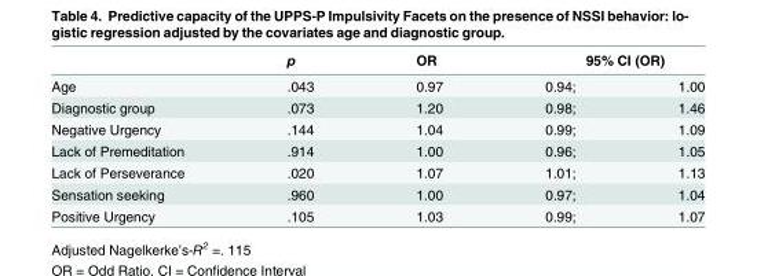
<table><thead><tr><td rowspan="2">Age</td><td rowspan="2">p .043</td><td rowspan="2">OR 0.97</td><td colspan="2">95% CI (OR)</td></tr><tr><td>0.94;</td><td>1.00</td></tr></thead><tbody><tr><td>Diagnostic group</td><td>.073</td><td>1.20</td><td>0.98;</td><td>1.46</td></tr><tr><td>Negative Urgency</td><td>.144</td><td>1.04</td><td>0.99;</td><td>1.09</td></tr><tr><td>Lack of Premeditation</td><td>.914</td><td>1.00</td><td>0.96;</td><td>1.05</td></tr><tr><td>Lack of Perseverance</td><td>.020</td><td>1.07</td><td>1.01;</td><td>1.13</td></tr><tr><td>Sensation seeking</td><td>.960</td><td>1.00</td><td>0.97;</td><td>1.04</td></tr><tr><td>Positive Urgency</td><td>.105</td><td>1.03</td><td>0.99;</td><td>1.07</td></tr></tbody></table>